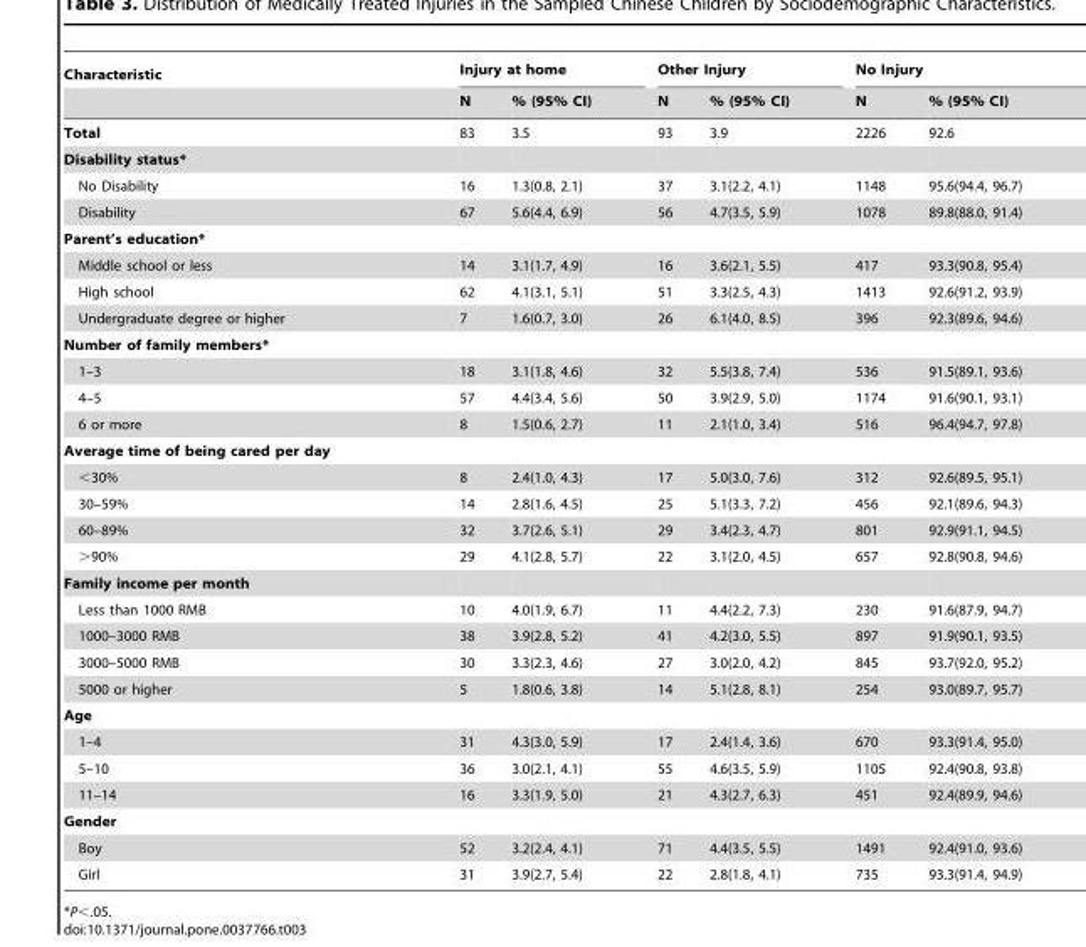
<table><thead><tr><td rowspan="2">Characteristic</td><td colspan="2">Injury at home</td><td colspan="2">Other Injury</td><td colspan="2">No Injury</td></tr><tr><td>N</td><td>% (95% CI)</td><td>N</td><td>% (95% CI)</td><td>N</td><td>% (95% CI)</td></tr></thead><tbody><tr><td>Total</td><td>83</td><td>3.5</td><td>93</td><td>3.9</td><td>2226</td><td>92.6</td></tr><tr><td colspan="7">Disability status*</td></tr><tr><td>No Disability</td><td>16</td><td>1.3(0.8, 2.1)</td><td>37</td><td>3.1(2.2, 4.1)</td><td>1148</td><td>95.6(94.4, 96.7)</td></tr><tr><td>Disability</td><td>67</td><td>5.6(4.4, 6.9)</td><td>56</td><td>4.7(3.5, 5.9)</td><td>1078</td><td>89.8(88.0, 91.4)</td></tr><tr><td colspan="7">Parent’s education*</td></tr><tr><td>Middle school or less</td><td>14</td><td>3.1(1.7, 4.9)</td><td>16</td><td>3.6(2.1, 5.5)</td><td>417</td><td>93.3(90.8, 95.4)</td></tr><tr><td>High school</td><td>62</td><td>4.1(3.1, 5.1)</td><td>51</td><td>3.3(2.5, 4.3)</td><td>1413</td><td>92.6(91.2, 93.9)</td></tr><tr><td>Undergraduate degree or higher</td><td>7</td><td>1.6(0.7, 3.0)</td><td>26</td><td>6.1(4.0, 8.5)</td><td>396</td><td>92.3(89.6, 94.6)</td></tr><tr><td colspan="7">Number of family members*</td></tr><tr><td>1–3</td><td>18</td><td>3.1(1.8, 4.6)</td><td>32</td><td>5.5(3.8, 7.4)</td><td>536</td><td>91.5(89.1, 93.6)</td></tr><tr><td>4–5</td><td>57</td><td>4.4(3.4, 5.6)</td><td>50</td><td>3.9(2.9, 5.0)</td><td>1174</td><td>91.6(90.1, 93.1)</td></tr><tr><td>6 or more</td><td>8</td><td>1.5(0.6, 2.7)</td><td>11</td><td>2.1(1.0, 3.4)</td><td>516</td><td>96.4(94.7, 97.8)</td></tr><tr><td colspan="7">Average time of being cared per day</td></tr><tr><td>&lt;30%</td><td>8</td><td>2.4(1.0, 4.3)</td><td>17</td><td>5.0(3.0, 7.6)</td><td>312</td><td>92.6(89.5, 95.1)</td></tr><tr><td>30–59%</td><td>14</td><td>2.8(1.6, 4.5)</td><td>25</td><td>5.1(3.3, 7.2)</td><td>456</td><td>92.1(89.6, 94.3)</td></tr><tr><td>60–89%</td><td>32</td><td>3.7(2.6, 5.1)</td><td>29</td><td>3.4(2.3, 4.7)</td><td>801</td><td>92.9(91.1, 94.5)</td></tr><tr><td>&gt;90%</td><td>29</td><td>4.1(2.8, 5.7)</td><td>22</td><td>3.1(2.0, 4.5)</td><td>657</td><td>92.8(90.8, 94.6)</td></tr><tr><td colspan="7">Family income per month</td></tr><tr><td>Less than 1000 RMB</td><td>10</td><td>4.0(1.9, 6.7)</td><td>11</td><td>4.4(2.2, 7.3)</td><td>230</td><td>91.6(87.9, 94.7)</td></tr><tr><td>1000–3000 RMB</td><td>38</td><td>3.9(2.8, 5.2)</td><td>41</td><td>4.2(3.0, 5.5)</td><td>897</td><td>91.9(90.1, 93.5)</td></tr><tr><td>3000–5000 RMB</td><td>30</td><td>3.3(2.3, 4.6)</td><td>27</td><td>3.0(2.0, 4.2)</td><td>845</td><td>93.7(92.0, 95.2)</td></tr><tr><td>5000 or higher</td><td>5</td><td>1.8(0.6, 3.8)</td><td>14</td><td>5.1(2.8, 8.1)</td><td>254</td><td>93.0(89.7, 95.7)</td></tr><tr><td colspan="7">Age</td></tr><tr><td>1–4</td><td>31</td><td>4.3(3.0, 5.9)</td><td>17</td><td>2.4(1.4, 3.6)</td><td>670</td><td>93.3(91.4, 95.0)</td></tr><tr><td>5–10</td><td>36</td><td>3.0(2.1, 4.1)</td><td>55</td><td>4.6(3.5, 5.9)</td><td>1105</td><td>92.4(90.8, 93.8)</td></tr><tr><td>11–14</td><td>16</td><td>3.3(1.9, 5.0)</td><td>21</td><td>4.3(2.7, 6.3)</td><td>451</td><td>92.4(89.9, 94.6)</td></tr><tr><td colspan="7">Gender</td></tr><tr><td>Boy</td><td>52</td><td>3.2(2.4, 4.1)</td><td>71</td><td>4.4(3.5, 5.5)</td><td>1491</td><td>92.4(91.0, 93.6)</td></tr><tr><td>Girl</td><td>31</td><td>3.9(2.7, 5.4)</td><td>22</td><td>2.8(1.8, 4.1)</td><td>735</td><td>93.3(91.4, 94.9)</td></tr></tbody></table>